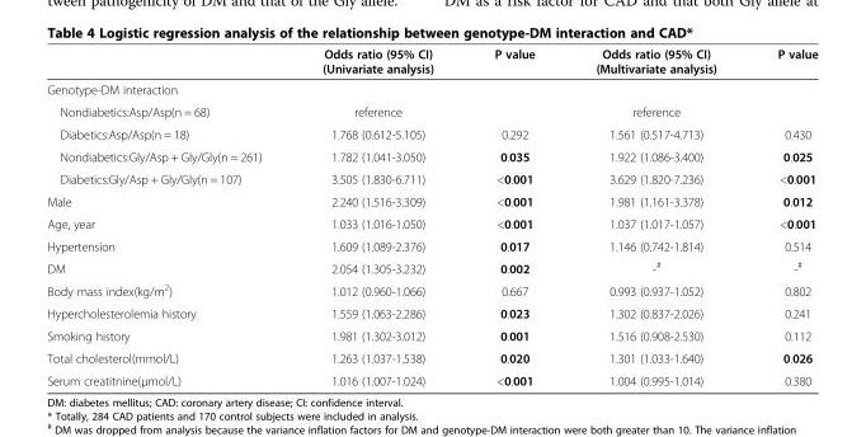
<table><thead><tr><td></td><td>Odds ratio (95% CI) (Univariate analysis)</td><td>P value</td><td>Odds ratio (95% CI) (Multivariate analysis)</td><td>P value</td></tr></thead><tbody><tr><td colspan="5">Genotype-DM interaction</td></tr><tr><td>Nondiabetics:Asp/Asp(n = 68)</td><td>reference</td><td></td><td>reference</td><td></td></tr><tr><td>Diabetics:Asp/Asp(n = 18)</td><td>1.768 (0.612-5.105)</td><td>0.292</td><td>1.561 (0.517-4.713)</td><td>0.430</td></tr><tr><td>Nondiabetics:Gly/Asp + Gly/Gly(n = 261)</td><td>1.782 (1.041-3.050)</td><td>0.035</td><td>1.922 (1.086-3.400)</td><td>0.025</td></tr><tr><td>Diabetics:Gly/Asp + Gly/Gly(n = 107)</td><td>3.505 (1.830-6.711)</td><td>&lt;0.001</td><td>3.629 (1.820-7.236)</td><td>&lt;0.001</td></tr><tr><td>Male</td><td>2.240 (1.516-3.309)</td><td>&lt;0.001</td><td>1.981 (1.161-3.378)</td><td>0.012</td></tr><tr><td>Age, year</td><td>1.033 (1.016-1.050)</td><td>&lt;0.001</td><td>1.037 (1.017-1.057)</td><td>&lt;0.001</td></tr><tr><td>Hypertension</td><td>1.609 (1.089-2.376)</td><td>0.017</td><td>1.146 (0.742-1.814)</td><td>0.514</td></tr><tr><td>DM</td><td>2.054 (1.305-3.232)</td><td>0.002</td><td>-<sup>#</sup></td><td>-<sup>#</sup></td></tr><tr><td>Body mass index(kg/m<sup>2</sup>)</td><td>1.012 (0.960-1.066)</td><td>0.667</td><td>0.993 (0.937-1.052)</td><td>0.802</td></tr><tr><td>Hypercholesterolemia history</td><td>1.559 (1.063-2.286)</td><td>0.023</td><td>1.302 (0.837-2.026)</td><td>0.241</td></tr><tr><td>Smoking history</td><td>1.981 (1.302-3.012)</td><td>0.001</td><td>1.516 (0.908-2.530)</td><td>0.112</td></tr><tr><td>Total cholesterol(mmol/L)</td><td>1.263 (1.037-1.538)</td><td>0.020</td><td>1.301 (1.033-1.640)</td><td>0.026</td></tr><tr><td>Serum creatitnine(μmol/L)</td><td>1.016 (1.007-1.024)</td><td>&lt;0.001</td><td>1.004 (0.995-1.014)</td><td>0.380</td></tr></tbody></table>